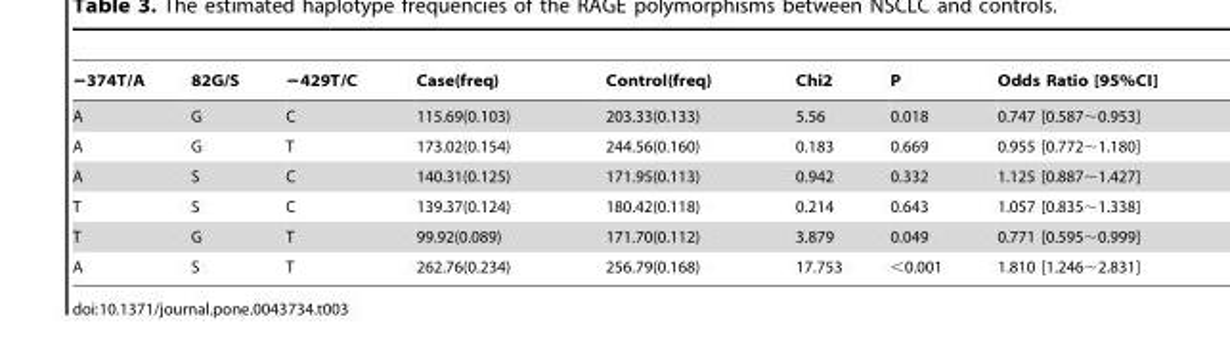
<table><thead><tr><td>−374T/A</td><td>82G/S</td><td>−429T/C</td><td>Case(freq)</td><td>Control(freq)</td><td>Chi2</td><td>P</td><td>Odds Ratio [95%CI]</td></tr></thead><tbody><tr><td>A</td><td>G</td><td>C</td><td>115.69(0.103)</td><td>203.33(0.133)</td><td>5.56</td><td>0.018</td><td>0.747 [0.587∼0.953]</td></tr><tr><td>A</td><td>G</td><td>T</td><td>173.02(0.154)</td><td>244.56(0.160)</td><td>0.183</td><td>0.669</td><td>0.955 [0.772∼1.180]</td></tr><tr><td>A</td><td>S</td><td>C</td><td>140.31(0.125)</td><td>171.95(0.113)</td><td>0.942</td><td>0.332</td><td>1.125 [0.887∼1.427]</td></tr><tr><td>T</td><td>S</td><td>C</td><td>139.37(0.124)</td><td>180.42(0.118)</td><td>0.214</td><td>0.643</td><td>1.057 [0.835∼1.338]</td></tr><tr><td>T</td><td>G</td><td>T</td><td>99.92(0.089)</td><td>171.70(0.112)</td><td>3.879</td><td>0.049</td><td>0.771 [0.595∼0.999]</td></tr><tr><td>A</td><td>S</td><td>T</td><td>262.76(0.234)</td><td>256.79(0.168)</td><td>17.753</td><td>&lt;0.001</td><td>1.810 [1.246∼2.831]</td></tr></tbody></table>